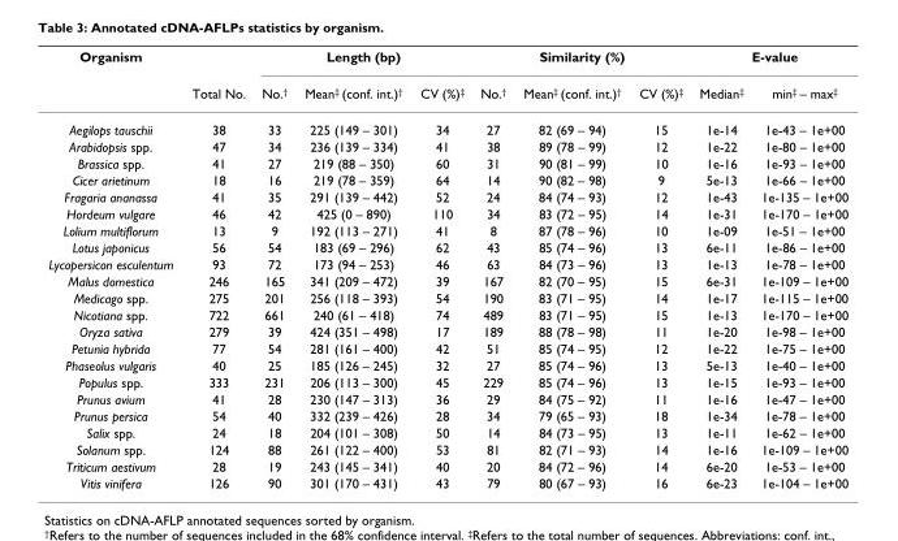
<table><thead><tr><td rowspan="2">Organism</td><td rowspan="2">Total No.</td><td colspan="3">Length (bp)</td><td colspan="3">Similarity (%)</td><td colspan="2">E-value</td></tr><tr><td>No.<sup>†</sup></td><td>Mean<sup>‡</sup> (conf. int.)<sup>†</sup></td><td>CV (%)<sup>‡</sup></td><td>No.<sup>†</sup></td><td>Mean<sup>‡</sup> (conf. int.)<sup>†</sup></td><td>CV (%)<sup>‡</sup></td><td>Median<sup>‡</sup></td><td>min<sup>‡</sup> – max<sup>‡</sup></td></tr></thead><tbody><tr><td>Aegilops tauschii</td><td>38</td><td>33</td><td>225 (149 – 301)</td><td>34</td><td>27</td><td>82 (69 – 94)</td><td>15</td><td>1e-14</td><td>1e-43 – 1e+00</td></tr><tr><td>Arabidopsis spp.</td><td>47</td><td>34</td><td>236 (139 – 334)</td><td>41</td><td>38</td><td>89 (78 – 99)</td><td>12</td><td>1e-22</td><td>1e-80 – 1e+00</td></tr><tr><td>Brassica spp.</td><td>41</td><td>27</td><td>219 (88 – 350)</td><td>60</td><td>31</td><td>90 (81 – 99)</td><td>10</td><td>1e-16</td><td>1e-93 – 1e+00</td></tr><tr><td>Cicer arietinum</td><td>18</td><td>16</td><td>219 (78 – 359)</td><td>64</td><td>14</td><td>90 (82 – 98)</td><td>9</td><td>5e-13</td><td>1e-66 – 1e+00</td></tr><tr><td>Fragaria ananassa</td><td>41</td><td>35</td><td>291 (139 – 442)</td><td>52</td><td>24</td><td>84 (74 – 93)</td><td>12</td><td>1e-43</td><td>1e-135 – 1e+00</td></tr><tr><td>Hordeum vulgare</td><td>46</td><td>42</td><td>425 (0 – 890)</td><td>110</td><td>34</td><td>83 (72 – 95)</td><td>14</td><td>1e-31</td><td>1e-170 – 1e+00</td></tr><tr><td>Lolium multiflorum</td><td>13</td><td>9</td><td>192 (113 – 271)</td><td>41</td><td>8</td><td>87 (78 – 96)</td><td>10</td><td>1e-09</td><td>1e-51 – 1e+00</td></tr><tr><td>Lotus japonicus</td><td>56</td><td>54</td><td>183 (69 – 296)</td><td>62</td><td>43</td><td>85 (74 – 96)</td><td>13</td><td>6e-11</td><td>1e-86 – 1e+00</td></tr><tr><td>Lycopersicon esculentum</td><td>93</td><td>72</td><td>173 (94 – 253)</td><td>46</td><td>63</td><td>84 (73 – 96)</td><td>13</td><td>1e-13</td><td>1e-78 – 1e+00</td></tr><tr><td>Malus domestica</td><td>246</td><td>165</td><td>341 (209 – 472)</td><td>39</td><td>167</td><td>82 (70 – 95)</td><td>15</td><td>6e-31</td><td>1e-109 – 1e+00</td></tr><tr><td>Medicago spp.</td><td>275</td><td>201</td><td>256 (118 – 393)</td><td>54</td><td>190</td><td>83 (71 – 95)</td><td>14</td><td>1e-17</td><td>1e-115 – 1e+00</td></tr><tr><td>Nicotiana spp.</td><td>722</td><td>661</td><td>240 (61 – 418)</td><td>74</td><td>489</td><td>83 (71 – 95)</td><td>15</td><td>1e-13</td><td>1e-170 – 1e+00</td></tr><tr><td>Oryza sativa</td><td>279</td><td>39</td><td>424 (351 – 498)</td><td>17</td><td>189</td><td>88 (78 – 98)</td><td>11</td><td>1e-20</td><td>1e-98 – 1e+00</td></tr><tr><td>Petunia hybrida</td><td>77</td><td>54</td><td>281 (161 – 400)</td><td>42</td><td>51</td><td>85 (74 – 95)</td><td>12</td><td>1e-22</td><td>1e-75 – 1e+00</td></tr><tr><td>Phaseolus vulgaris</td><td>40</td><td>25</td><td>185 (126 – 245)</td><td>32</td><td>27</td><td>85 (74 – 96)</td><td>13</td><td>5e-13</td><td>1e-40 – 1e+00</td></tr><tr><td>Populus spp.</td><td>333</td><td>231</td><td>206 (113 – 300)</td><td>45</td><td>229</td><td>85 (74 – 96)</td><td>13</td><td>1e-15</td><td>1e-93 – 1e+00</td></tr><tr><td>Prunus avium</td><td>41</td><td>28</td><td>230 (147 – 313)</td><td>36</td><td>29</td><td>84 (75 – 92)</td><td>11</td><td>1e-16</td><td>1e-47 – 1e+00</td></tr><tr><td>Prunus persica</td><td>54</td><td>40</td><td>332 (239 – 426)</td><td>28</td><td>34</td><td>79 (65 – 93)</td><td>18</td><td>1e-34</td><td>1e-78 – 1e+00</td></tr><tr><td>Salix spp.</td><td>24</td><td>18</td><td>204 (101 – 308)</td><td>50</td><td>14</td><td>84 (73 – 95)</td><td>13</td><td>1e-11</td><td>1e-62 – 1e+00</td></tr><tr><td>Solanum spp.</td><td>124</td><td>88</td><td>261 (122 – 400)</td><td>53</td><td>81</td><td>82 (71 – 93)</td><td>14</td><td>1e-16</td><td>1e-109 – 1e+00</td></tr><tr><td>Triticum aestivum</td><td>28</td><td>19</td><td>243 (145 – 341)</td><td>40</td><td>20</td><td>84 (72 – 96)</td><td>14</td><td>6e-20</td><td>1e-53 – 1e+00</td></tr><tr><td>Vitis vinifera</td><td>126</td><td>90</td><td>301 (170 – 431)</td><td>43</td><td>79</td><td>80 (67 – 93)</td><td>16</td><td>6e-23</td><td>1e-104 – 1e+00</td></tr></tbody></table>